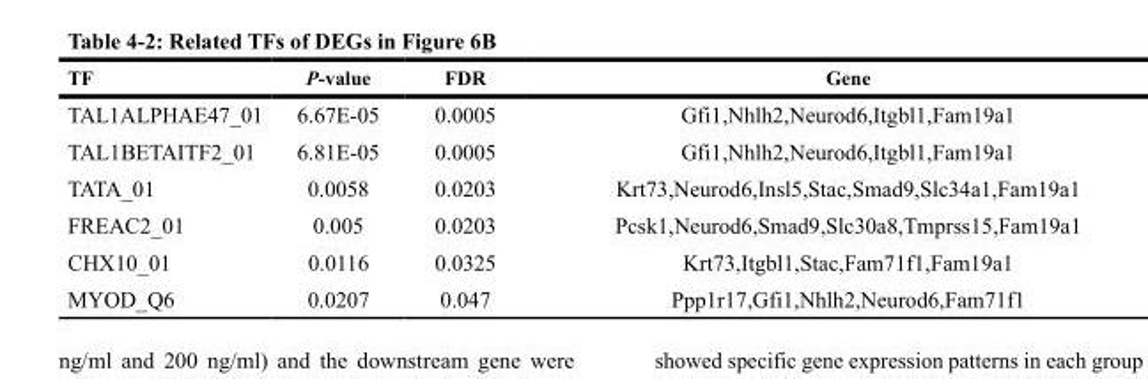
<table><thead><tr><td>tF</td><td>P-value</td><td>Fdr</td><td>Gene</td></tr></thead><tbody><tr><td>TAL1ALPHAE47_01</td><td>6.67E-05</td><td>0.0005</td><td>Gfi1,Nhlh2,Neurod6,Itgbl1,Fam19a1</td></tr><tr><td>TAL1BETAITF2_01</td><td>6.81E-05</td><td>0.0005</td><td>Gfi1,Nhlh2,Neurod6,Itgbl1,Fam19a1</td></tr><tr><td>TATA_01</td><td>0.0058</td><td>0.0203</td><td>Krt73,Neurod6,Insl5,Stac,Smad9,Slc34a1,Fam19a1</td></tr><tr><td>FREAC2_01</td><td>0.005</td><td>0.0203</td><td>Pcsk1,Neurod6,Smad9,Slc30a8,Tmprss15,Fam19a1</td></tr><tr><td>CHX10_01</td><td>0.0116</td><td>0.0325</td><td>Krt73,Itgbl1,Stac,Fam71f1,Fam19a1</td></tr><tr><td>MYOD_Q6</td><td>0.0207</td><td>0.047</td><td>Ppp1r17,Gfi1,Nhlh2,Neurod6,Fam71f1</td></tr></tbody></table>